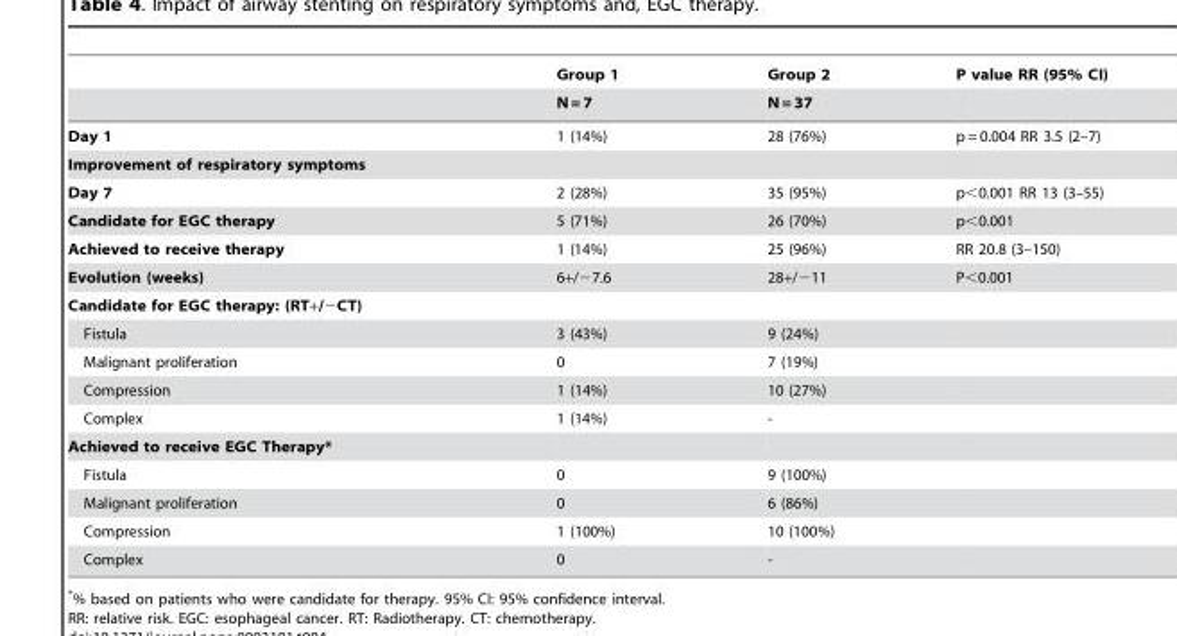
<table><thead><tr><td rowspan="2"></td><td rowspan="2">Group 1 N = 7</td><td rowspan="2">Group 2 N = 37</td><td rowspan="2">P value RR (95% CI)</td></tr><tr></tr></thead><tbody><tr><td>Day 1</td><td>1 (14%)</td><td>28 (76%)</td><td>p = 0.004 RR 3.5 (2–7)</td></tr><tr><td colspan="4">Improvement of respiratory symptoms</td></tr><tr><td>Day 7</td><td>2 (28%)</td><td>35 (95%)</td><td>p&lt;0.001 RR 13 (3–55)</td></tr><tr><td>Candidate for EGC therapy</td><td>5 (71%)</td><td>26 (70%)</td><td>p&lt;0.001</td></tr><tr><td>Achieved to receive therapy</td><td>1 (14%)</td><td>25 (96%)</td><td>RR 20.8 (3–150)</td></tr><tr><td>Evolution (weeks)</td><td>6+/−7.6</td><td>28+/−11</td><td>P&lt;0.001</td></tr><tr><td colspan="4">Candidate for EGC therapy: (RT+/−CT)</td></tr><tr><td>Fistula</td><td>3 (43%)</td><td>9 (24%)</td><td></td></tr><tr><td>Malignant proliferation</td><td>0</td><td>7 (19%)</td><td></td></tr><tr><td>Compression</td><td>1 (14%)</td><td>10 (27%)</td><td></td></tr><tr><td>Complex</td><td>1 (14%)</td><td>-</td><td></td></tr><tr><td colspan="4">Achieved to receive EGC Therapy*</td></tr><tr><td>Fistula</td><td>0</td><td>9 (100%)</td><td></td></tr><tr><td>Malignant proliferation</td><td>0</td><td>6 (86%)</td><td></td></tr><tr><td>Compression</td><td>1 (100%)</td><td>10 (100%)</td><td></td></tr><tr><td>Complex</td><td>0</td><td>-</td><td></td></tr></tbody></table>